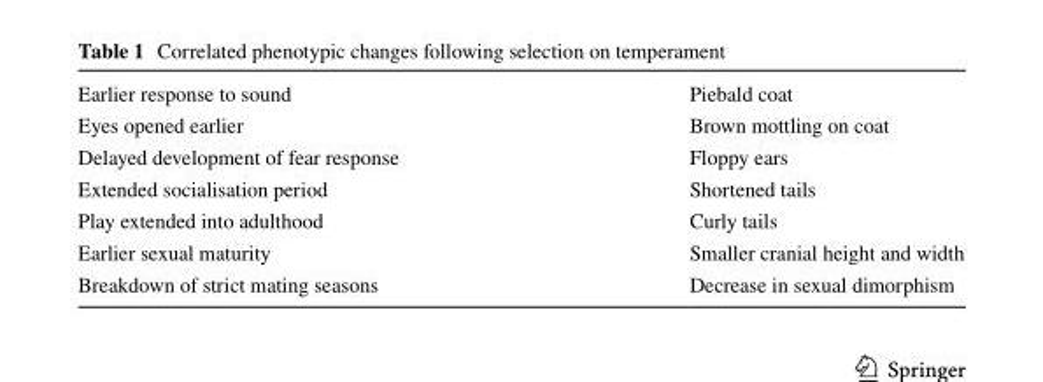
<table><tbody><tr><td>Earlier response to sound</td><td>Piebald coat</td></tr><tr><td>Eyes opened earlier</td><td>Brown mottling on coat</td></tr><tr><td>Delayed development of fear response</td><td>Floppy ears</td></tr><tr><td>Extended socialisation period</td><td>Shortened tails</td></tr><tr><td>Play extended into adulthood</td><td>Curly tails</td></tr><tr><td>Earlier sexual maturity</td><td>Smaller cranial height and width</td></tr><tr><td>Breakdown of strict mating seasons</td><td>Decrease in sexual dimorphism</td></tr></tbody></table>